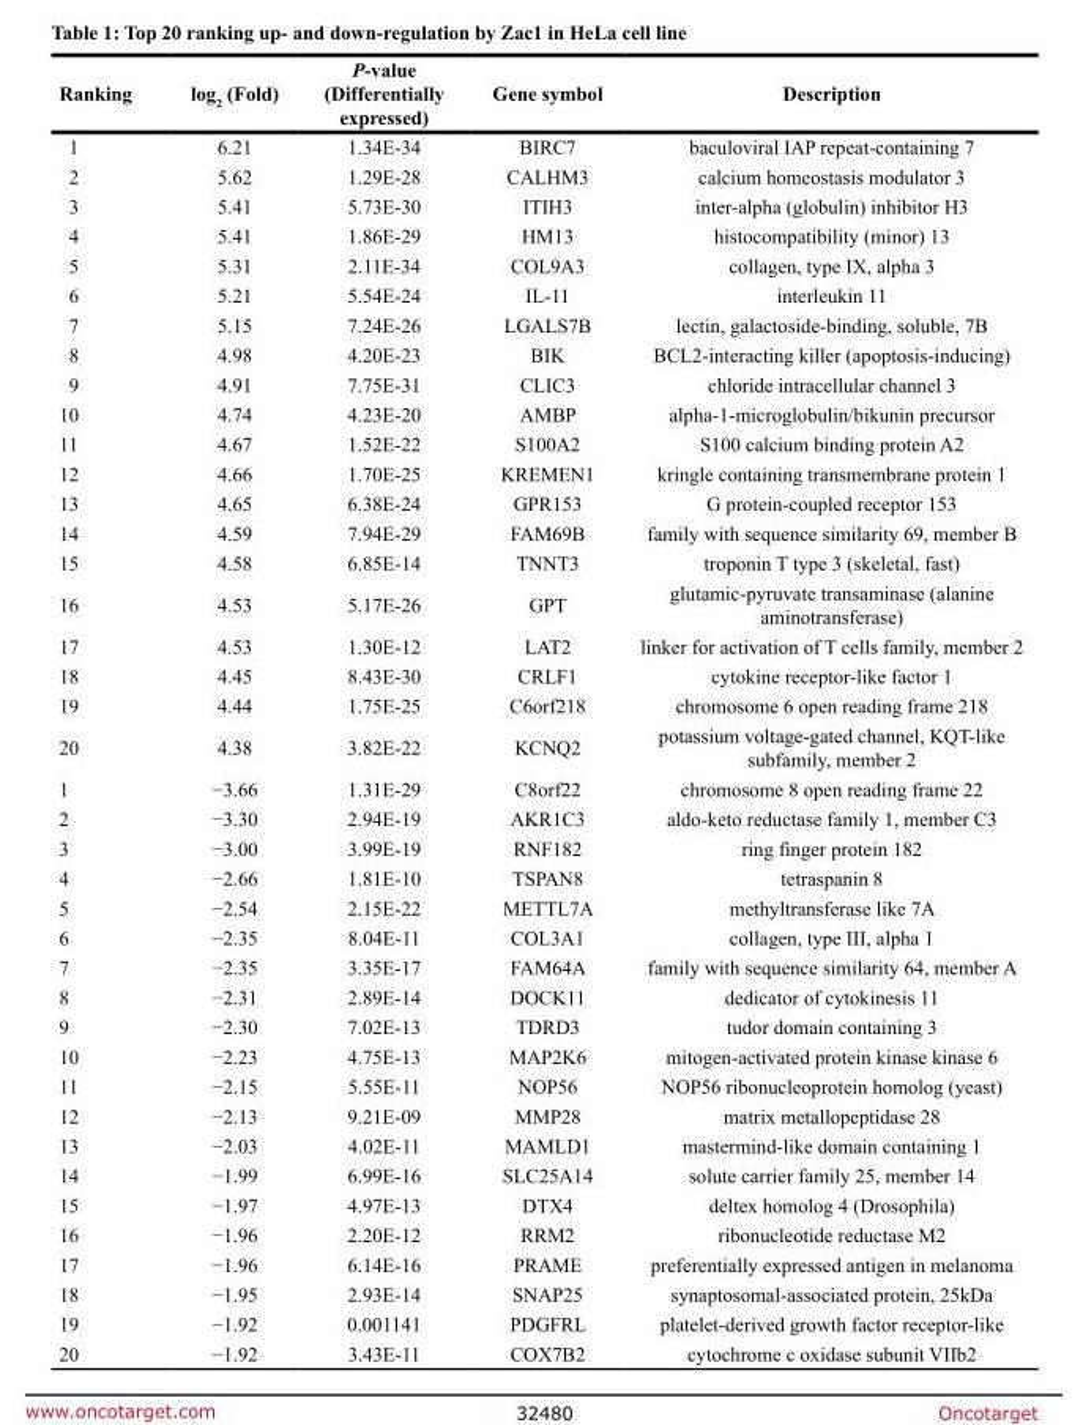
<table><thead><tr><td>Ranking</td><td>log<sub>2</sub> (Fold)</td><td>P-value (Differentially expressed)</td><td>Gene symbol</td><td>Description</td></tr></thead><tbody><tr><td>1</td><td>6.21</td><td>1.34E-34</td><td>BIRC7</td><td>baculoviral IAP repeat-containing 7</td></tr><tr><td>2</td><td>5.62</td><td>1.29E-28</td><td>CALHM3</td><td>calcium homeostasis modulator 3</td></tr><tr><td>3</td><td>5.41</td><td>5.73E-30</td><td>ITIH3</td><td>inter-alpha (globulin) inhibitor H3</td></tr><tr><td>4</td><td>5.41</td><td>1.86E-29</td><td>HM13</td><td>histocompatibility (minor) 13</td></tr><tr><td>5</td><td>5.31</td><td>2.11E-34</td><td>COL9A3</td><td>collagen, type IX, alpha 3</td></tr><tr><td>6</td><td>5.21</td><td>5.54E-24</td><td>IL-11</td><td>interleukin 11</td></tr><tr><td>7</td><td>5.15</td><td>7.24E-26</td><td>LGALS7B</td><td>lectin, galactoside-binding, soluble, 7B</td></tr><tr><td>8</td><td>4.98</td><td>4.20E-23</td><td>BIK</td><td>BCL2-interacting killer (apoptosis-inducing)</td></tr><tr><td>9</td><td>4.91</td><td>7.75E-31</td><td>CLIC3</td><td>chloride intracellular channel 3</td></tr><tr><td>10</td><td>4.74</td><td>4.23E-20</td><td>AMBP</td><td>alpha-1-microglobulin/bikunin precursor</td></tr><tr><td>11</td><td>4.67</td><td>1.52E-22</td><td>S100A2</td><td>S100 calcium binding protein A2</td></tr><tr><td>12</td><td>4.66</td><td>1.70E-25</td><td>KREMEN1</td><td>kringle containing transmembrane protein 1</td></tr><tr><td>13</td><td>4.65</td><td>6.38E-24</td><td>GPR153</td><td>G protein-coupled receptor 153</td></tr><tr><td>14</td><td>4.59</td><td>7.94E-29</td><td>FAM69B</td><td>family with sequence similarity 69, member B</td></tr><tr><td>15</td><td>4.58</td><td>6.85E-14</td><td>TNNT3</td><td>troponin T type 3 (skeletal, fast)</td></tr><tr><td>16</td><td>4.53</td><td>5.17E-26</td><td>GPT</td><td>glutamic-pyruvate transaminase (alanine aminotransferase)</td></tr><tr><td>17</td><td>4.53</td><td>1.30E-12</td><td>LAT2</td><td>linker for activation of T cells family, member 2</td></tr><tr><td>18</td><td>4.45</td><td>8.43E-30</td><td>CRLF1</td><td>cytokine receptor-like factor 1</td></tr><tr><td>19</td><td>4.44</td><td>1.75E-25</td><td>C6orf218</td><td>chromosome 6 open reading frame 218</td></tr><tr><td>20</td><td>4.38</td><td>3.82E-22</td><td>KCNQ2</td><td>potassium voltage-gated channel, KQT-like subfamily, member 2</td></tr><tr><td>1</td><td>−3.66</td><td>1.31E-29</td><td>C8orf22</td><td>chromosome 8 open reading frame 22</td></tr><tr><td>2</td><td>−3.30</td><td>2.94E-19</td><td>AKR1C3</td><td>aldo-keto reductase family 1, member C3</td></tr><tr><td>3</td><td>−3.00</td><td>3.99E-19</td><td>RNF182</td><td>ring finger protein 182</td></tr><tr><td>4</td><td>−2.66</td><td>1.81E-10</td><td>TSPAN8</td><td>tetraspanin 8</td></tr><tr><td>5</td><td>−2.54</td><td>2.15E-22</td><td>METTL7A</td><td>methyltransferase like 7A</td></tr><tr><td>6</td><td>−2.35</td><td>8.04E-11</td><td>COL3A1</td><td>collagen, type III, alpha 1</td></tr><tr><td>7</td><td>−2.35</td><td>3.35E-17</td><td>FAM64A</td><td>family with sequence similarity 64, member A</td></tr><tr><td>8</td><td>−2.31</td><td>2.89E-14</td><td>DOCK11</td><td>dedicator of cytokinesis 11</td></tr><tr><td>9</td><td>−2.30</td><td>7.02E-13</td><td>TDRD3</td><td>tudor domain containing 3</td></tr><tr><td>10</td><td>−2.23</td><td>4.75E-13</td><td>MAP2K6</td><td>mitogen-activated protein kinase kinase 6</td></tr><tr><td>11</td><td>−2.15</td><td>5.55E-11</td><td>NOP56</td><td>NOP56 ribonucleoprotein homolog (yeast)</td></tr><tr><td>12</td><td>−2.13</td><td>9.21E-09</td><td>MMP28</td><td>matrix metallopeptidase 28</td></tr><tr><td>13</td><td>−2.03</td><td>4.02E-11</td><td>MAMLD1</td><td>mastermind-like domain containing 1</td></tr><tr><td>14</td><td>−1.99</td><td>6.99E-16</td><td>SLC25A14</td><td>solute carrier family 25, member 14</td></tr><tr><td>15</td><td>−1.97</td><td>4.97E-13</td><td>DTX4</td><td>deltex homolog 4 (Drosophila)</td></tr><tr><td>16</td><td>−1.96</td><td>2.20E-12</td><td>RRM2</td><td>ribonucleotide reductase M2</td></tr><tr><td>17</td><td>−1.96</td><td>6.14E-16</td><td>PRAME</td><td>preferentially expressed antigen in melanoma</td></tr><tr><td>18</td><td>−1.95</td><td>2.93E-14</td><td>SNAP25</td><td>synaptosomal-associated protein, 25kDa</td></tr><tr><td>19</td><td>−1.92</td><td>0.001141</td><td>PDGFRL</td><td>platelet-derived growth factor receptor-like</td></tr><tr><td>20</td><td>−1.92</td><td>3.43E-11</td><td>COX7B2</td><td>cytochrome c oxidase subunit VIIb2</td></tr></tbody></table>